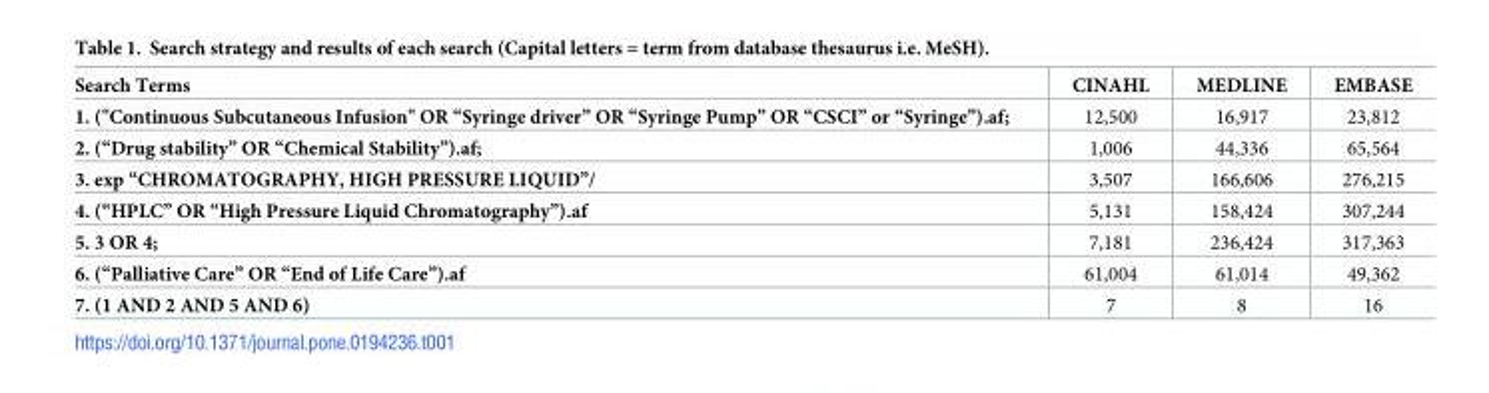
<table><thead><tr><td>Search Terms</td><td>CINAHL</td><td>MEDLINE</td><td>EMBASE</td></tr></thead><tbody><tr><td>1. (&quot;Continuous Subcutaneous Infusion&quot; OR “Syringe driver” OR “Syringe Pump” OR “CSCI” or “Syringe”).af;</td><td>12,500</td><td>16,917</td><td>23,812</td></tr><tr><td>2. (“Drug stability” OR “Chemical Stability”).af;</td><td>1,006</td><td>44,336</td><td>65,564</td></tr><tr><td>3. exp “CHROMATOGRAPHY, HIGH PRESSURE LIQUID”/</td><td>3,507</td><td>166,606</td><td>276,215</td></tr><tr><td>4. (“HPLC” OR “High Pressure Liquid Chromatography”).af</td><td>5,131</td><td>158,424</td><td>307,244</td></tr><tr><td>5. 3 OR 4;</td><td>7,181</td><td>236,424</td><td>317,363</td></tr><tr><td>6. (“Palliative Care” OR “End of Life Care”).af</td><td>61,004</td><td>61,014</td><td>49,362</td></tr><tr><td>7. (1 AND 2 AND 5 AND 6)</td><td>7</td><td>8</td><td>16</td></tr></tbody></table>